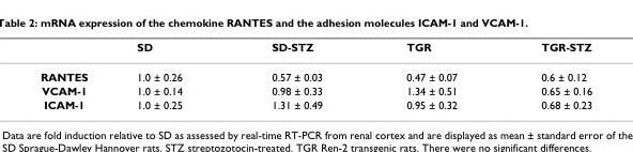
<table><thead><tr><td></td><td>SD</td><td>SD-STZ</td><td>TGR</td><td>TGR-STZ</td></tr></thead><tbody><tr><td>RANTES</td><td>1.0 ± 0.26</td><td>0.57 ± 0.03</td><td>0.47 ± 0.07</td><td>0.6 ± 0.12</td></tr><tr><td>VCAM-1</td><td>1.0 ± 0.14</td><td>0.98 ± 0.33</td><td>1.34 ± 0.51</td><td>0.65 ± 0.16</td></tr><tr><td>ICAM-1</td><td>1.0 ± 0.25</td><td>1.31 ± 0.49</td><td>0.95 ± 0.32</td><td>0.68 ± 0.23</td></tr></tbody></table>